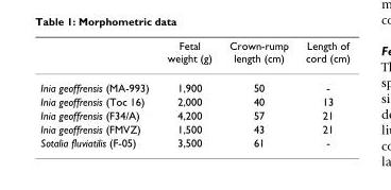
<table><thead><tr><td></td><td>Fetal weight (g)</td><td>Crown-rump length (cm)</td><td>Length of cord (cm)</td></tr></thead><tbody><tr><td>Inia geoffrensis (MA-993)</td><td>1,900</td><td>50</td><td>-</td></tr><tr><td>Inia geoffrensis (Toc 16)</td><td>2,000</td><td>40</td><td>13</td></tr><tr><td>Inia geoffrensis (F34/A)</td><td>4,200</td><td>57</td><td>21</td></tr><tr><td>Inia geoffrensis (FMVZ)</td><td>1,500</td><td>43</td><td>21</td></tr><tr><td>Sotalia fluviatilis (F-05)</td><td>3,500</td><td>61</td><td>-</td></tr></tbody></table>